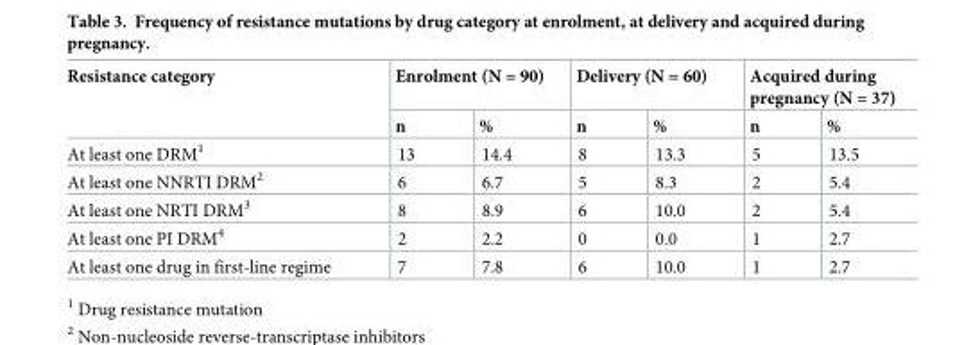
<table><thead><tr><td rowspan="2">Resistance category</td><td colspan="2">Enrolment (N = 90)</td><td colspan="2">Delivery (N = 60)</td><td colspan="2">Acquired during pregnancy (N = 37)</td></tr><tr><td>n</td><td>%</td><td>n</td><td>%</td><td>n</td><td>%</td></tr></thead><tbody><tr><td>At least one DRM<sup>1</sup></td><td>13</td><td>14.4</td><td>8</td><td>13.3</td><td>5</td><td>13.5</td></tr><tr><td>At least one NNRTI DRM<sup>2</sup></td><td>6</td><td>6.7</td><td>5</td><td>8.3</td><td>2</td><td>5.4</td></tr><tr><td>At least one NRTI DRM<sup>3</sup></td><td>8</td><td>8.9</td><td>6</td><td>10.0</td><td>2</td><td>5.4</td></tr><tr><td>At least one PI DRM<sup>4</sup></td><td>2</td><td>2.2</td><td>0</td><td>0.0</td><td>1</td><td>2.7</td></tr><tr><td>At least one drug in first-line regime</td><td>7</td><td>7.8</td><td>6</td><td>10.0</td><td>1</td><td>2.7</td></tr></tbody></table>